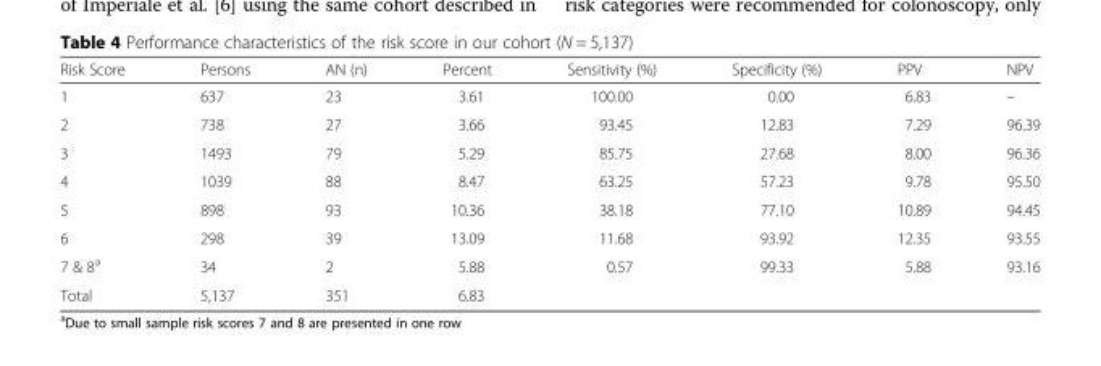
<table><thead><tr><td>Risk Score</td><td>Persons</td><td>AN (n)</td><td>Percent</td><td>Sensitivity (%)</td><td>Specificity (%)</td><td>PPV</td><td>NPV</td></tr></thead><tbody><tr><td>1</td><td>637</td><td>23</td><td>3.61</td><td>100.00</td><td>0.00</td><td>6.83</td><td>–</td></tr><tr><td>2</td><td>738</td><td>27</td><td>3.66</td><td>93.45</td><td>12.83</td><td>7.29</td><td>96.39</td></tr><tr><td>3</td><td>1493</td><td>79</td><td>5.29</td><td>85.75</td><td>27.68</td><td>8.00</td><td>96.36</td></tr><tr><td>4</td><td>1039</td><td>88</td><td>8.47</td><td>63.25</td><td>57.23</td><td>9.78</td><td>95.50</td></tr><tr><td>5</td><td>898</td><td>93</td><td>10.36</td><td>38.18</td><td>77.10</td><td>10.89</td><td>94.45</td></tr><tr><td>6</td><td>298</td><td>39</td><td>13.09</td><td>11.68</td><td>93.92</td><td>12.35</td><td>93.55</td></tr><tr><td>7 &amp; 8<sup>a</sup></td><td>34</td><td>2</td><td>5.88</td><td rowspan="2">0.57</td><td rowspan="2">99.33</td><td rowspan="2">5.88</td><td rowspan="2">93.16</td></tr><tr><td>Total</td><td>5,137</td><td>351</td><td>6.83</td></tr></tbody></table>